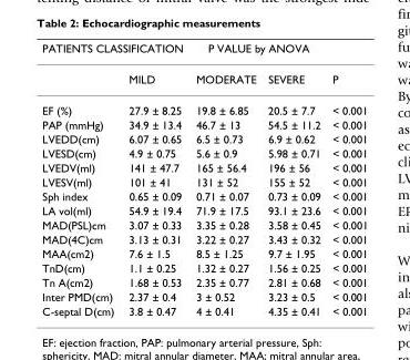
<table><thead><tr><td colspan="2">PATIENTS CLASSIFICATION</td><td colspan="2">P VALUE by ANOVA</td><td rowspan="2">P</td></tr><tr><td></td><td>MILD</td><td>MODERATE</td><td>SEVERE</td></tr></thead><tbody><tr><td>EF (%)</td><td>27.9 ± 8.25</td><td>19.8 ± 6.85</td><td>20.5 ± 7.7</td><td>&lt; 0.001</td></tr><tr><td>PAP (mmHg)</td><td>34.9 ± 13.4</td><td>46.7 ± 13</td><td>54.5 ± 11.2</td><td>&lt; 0.001</td></tr><tr><td>LVEDD(cm)</td><td>6.07 ± 0.65</td><td>6.5 ± 0.73</td><td>6.9 ± 0.62</td><td>&lt; 0.001</td></tr><tr><td>LVESD(cm)</td><td>4.9 ± 0.75</td><td>5.6 ± 0.9</td><td>5.98 ± 0.71</td><td>&lt; 0.001</td></tr><tr><td>LVEDV(ml)</td><td>141 ± 47.7</td><td>165 ± 56.4</td><td>196 ± 56</td><td>&lt; 0.001</td></tr><tr><td>LVESV(ml)</td><td>101 ± 41</td><td>131 ± 52</td><td>155 ± 52</td><td>&lt; 0.001</td></tr><tr><td>Sph index</td><td>0.65 ± 0.09</td><td>0.71 ± 0.07</td><td>0.73 ± 0.09</td><td>&lt; 0.001</td></tr><tr><td>LA vol(ml)</td><td>54.9 ± 19.4</td><td>71.9 ± 17.5</td><td>93.1 ± 23.6</td><td>&lt; 0.001</td></tr><tr><td>MAD(PSL)cm</td><td>3.07 ± 0.33</td><td>3.35 ± 0.28</td><td>3.58 ± 0.45</td><td>&lt; 0.001</td></tr><tr><td>MAD(4C)cm</td><td>3.13 ± 0.31</td><td>3.22 ± 0.27</td><td>3.43 ± 0.32</td><td>&lt; 0.001</td></tr><tr><td>MAA(cm2)</td><td>7.6 ± 1.5</td><td>8.5 ± 1.25</td><td>9.7 ± 1.95</td><td>&lt; 0.001</td></tr><tr><td>TnD(cm)</td><td>1.1 ± 0.25</td><td>1.32 ± 0.27</td><td>1.56 ± 0.25</td><td>&lt; 0.001</td></tr><tr><td>Tn A(cm2)</td><td>1.68 ± 0.53</td><td>2.35 ± 0.77</td><td>2.81 ± 0.68</td><td>&lt; 0.001</td></tr><tr><td>Inter PMD(cm)</td><td>2.37 ± 0.4</td><td>3 ± 0.52</td><td>3.23 ± 0.5</td><td>&lt; 0.001</td></tr><tr><td>C-septal D(cm)</td><td>3.8 ± 0.47</td><td>4 ± 0.41</td><td>4.35 ± 0.41</td><td>&lt; 0.001</td></tr></tbody></table>